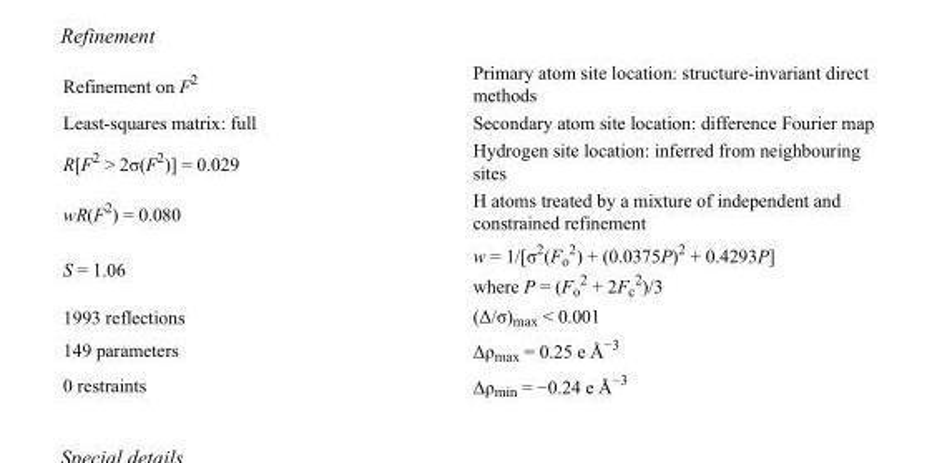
<table><tbody><tr><td>Refinement on F<sup>2</sup></td><td>Primary atom site location: structure-invariant direct methods</td></tr><tr><td>Least-squares matrix: full</td><td>Secondary atom site location: difference Fourier map</td></tr><tr><td>R[F<sup>2</sup> &gt; 2σ(F<sup>2</sup>)] = 0.029</td><td>Hydrogen site location: inferred from neighbouring sites</td></tr><tr><td>wR(F<sup>2</sup>) = 0.080</td><td>H atoms treated by a mixture of independent and constrained refinement</td></tr><tr><td>S = 1.06</td><td>w = 1/[σ<sup>2</sup>(F<sub>o</sub> <sup>2</sup>) + (0.0375P)<sup>2</sup> + 0.4293P] where P = (F<sub>o</sub> <sup>2</sup> + 2F<sub>c</sub> <sup>2</sup>)/3</td></tr><tr><td>1993 reflections</td><td>(Δ/σ)<sub>max</sub> &lt; 0.001</td></tr><tr><td>149 parameters</td><td>Δρ<sub>max</sub> = 0.25 e Å<sup>−3</sup></td></tr><tr><td>0 restraints</td><td>Δρ<sub>min</sub> = −0.24 e Å<sup>−3</sup></td></tr></tbody></table>